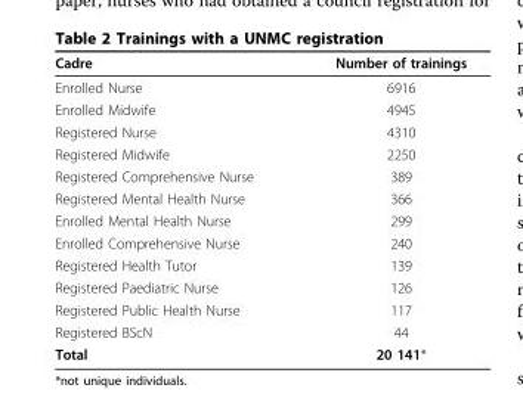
<table><thead><tr><td>Cadre</td><td>Number of trainings</td></tr></thead><tbody><tr><td>Enrolled Nurse</td><td>6916</td></tr><tr><td>Enrolled Midwife</td><td>4945</td></tr><tr><td>Registered Nurse</td><td>4310</td></tr><tr><td>Registered Midwife</td><td>2250</td></tr><tr><td>Registered Comprehensive Nurse</td><td>389</td></tr><tr><td>Registered Mental Health Nurse</td><td>366</td></tr><tr><td>Enrolled Mental Health Nurse</td><td>299</td></tr><tr><td>Enrolled Comprehensive Nurse</td><td>240</td></tr><tr><td>Registered Health Tutor</td><td>139</td></tr><tr><td>Registered Paediatric Nurse</td><td>126</td></tr><tr><td>Registered Public Health Nurse</td><td>117</td></tr><tr><td>Registered BScN</td><td>44</td></tr><tr><td>Total</td><td>20 141*</td></tr></tbody></table>